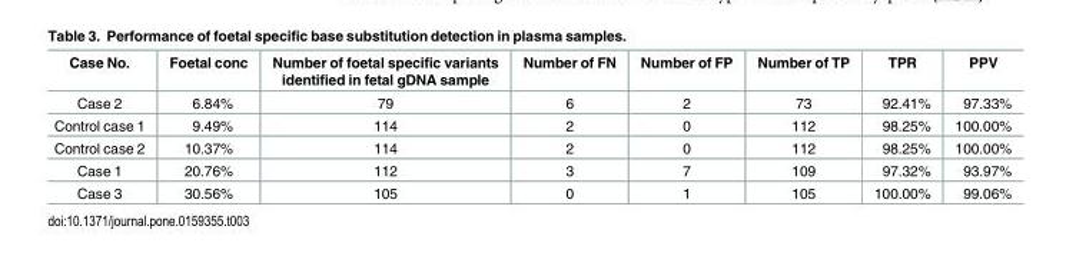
<table><thead><tr><td>Case No.</td><td>Foetal conc</td><td>Number of foetal specific variants identified in fetal gDNA sample</td><td>Number of FN</td><td>Number of FP</td><td>Number of TP</td><td>TPR</td><td>PPV</td></tr></thead><tbody><tr><td>Case 2</td><td>6.84%</td><td>79</td><td>6</td><td>2</td><td>73</td><td>92.41%</td><td>97.33%</td></tr><tr><td>Control case 1</td><td>9.49%</td><td>114</td><td>2</td><td>0</td><td>112</td><td>98.25%</td><td>100.00%</td></tr><tr><td>Control case 2</td><td>10.37%</td><td>114</td><td>2</td><td>0</td><td>112</td><td>98.25%</td><td>100.00%</td></tr><tr><td>Case 1</td><td>20.76%</td><td>112</td><td>3</td><td>7</td><td>109</td><td>97.32%</td><td>93.97%</td></tr><tr><td>Case 3</td><td>30.56%</td><td>105</td><td>0</td><td>1</td><td>105</td><td>100.00%</td><td>99.06%</td></tr></tbody></table>